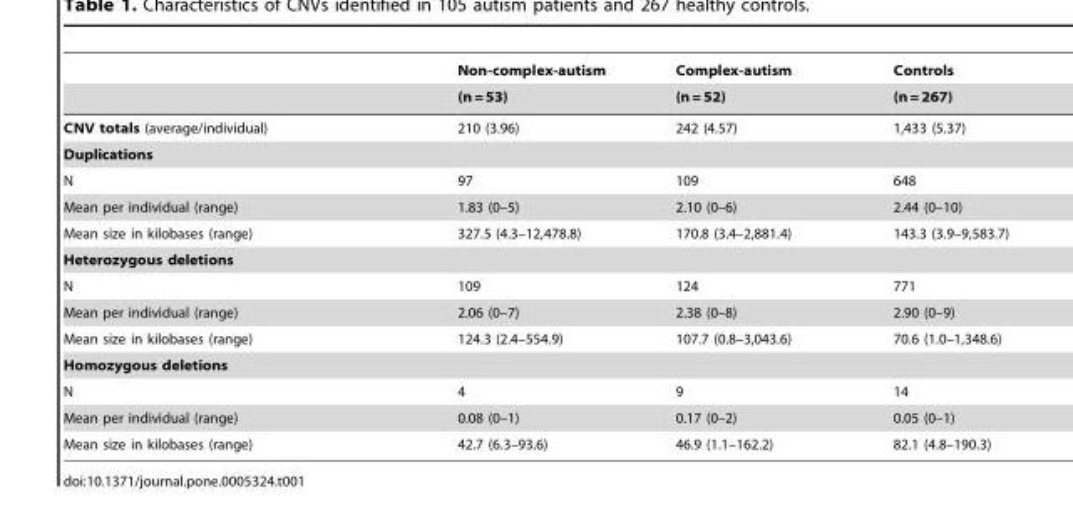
<table><thead><tr><td rowspan="2"></td><td rowspan="2">Non-complex-autism (n = 53)</td><td rowspan="2">Complex-autism (n = 52)</td><td rowspan="2">Controls (n = 267)</td></tr><tr></tr></thead><tbody><tr><td>CNV totals (average/individual)</td><td>210 (3.96)</td><td>242 (4.57)</td><td>1,433 (5.37)</td></tr><tr><td colspan="4">Duplications</td></tr><tr><td>N</td><td>97</td><td>109</td><td>648</td></tr><tr><td>Mean per individual (range)</td><td>1.83 (0–5)</td><td>2.10 (0–6)</td><td>2.44 (0–10)</td></tr><tr><td>Mean size in kilobases (range)</td><td>327.5 (4.3–12,478.8)</td><td>170.8 (3.4–2,881.4)</td><td>143.3 (3.9–9,583.7)</td></tr><tr><td colspan="4">Heterozygous deletions</td></tr><tr><td>N</td><td>109</td><td>124</td><td>771</td></tr><tr><td>Mean per individual (range)</td><td>2.06 (0–7)</td><td>2.38 (0–8)</td><td>2.90 (0–9)</td></tr><tr><td>Mean size in kilobases (range)</td><td>124.3 (2.4–554.9)</td><td>107.7 (0.8–3,043.6)</td><td>70.6 (1.0–1,348.6)</td></tr><tr><td colspan="4">Homozygous deletions</td></tr><tr><td>N</td><td>4</td><td>9</td><td>14</td></tr><tr><td>Mean per individual (range)</td><td>0.08 (0–1)</td><td>0.17 (0–2)</td><td>0.05 (0–1)</td></tr><tr><td>Mean size in kilobases (range)</td><td>42.7 (6.3–93.6)</td><td>46.9 (1.1–162.2)</td><td>82.1 (4.8–190.3)</td></tr></tbody></table>